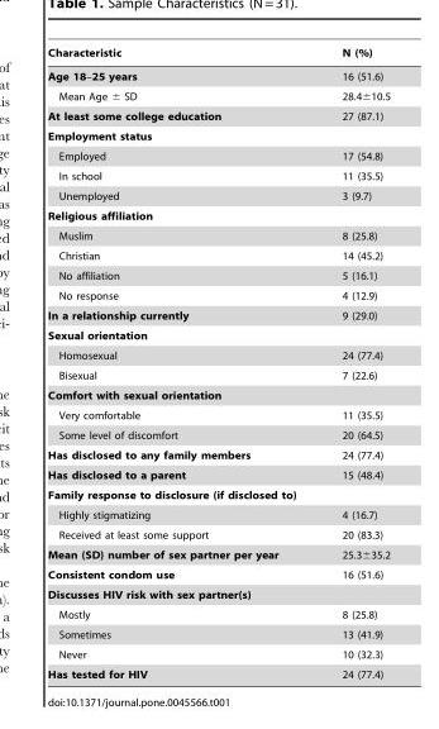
<table><thead><tr><td>Characteristic</td><td>N (%)</td></tr></thead><tbody><tr><td>Age 18–25 years</td><td>16 (51.6)</td></tr><tr><td>Mean Age ± SD</td><td>28.4±10.5</td></tr><tr><td>At least some college education</td><td>27 (87.1)</td></tr><tr><td colspan="2">Employment status</td></tr><tr><td>Employed</td><td>17 (54.8)</td></tr><tr><td>In school</td><td>11 (35.5)</td></tr><tr><td>Unemployed</td><td>3 (9.7)</td></tr><tr><td colspan="2">Religious affiliation</td></tr><tr><td>Muslim</td><td>8 (25.8)</td></tr><tr><td>Christian</td><td>14 (45.2)</td></tr><tr><td>No affiliation</td><td>5 (16.1)</td></tr><tr><td>No response</td><td>4 (12.9)</td></tr><tr><td>In a relationship currently</td><td>9 (29.0)</td></tr><tr><td colspan="2">Sexual orientation</td></tr><tr><td>Homosexual</td><td>24 (77.4)</td></tr><tr><td>Bisexual</td><td>7 (22.6)</td></tr><tr><td colspan="2">Comfort with sexual orientation</td></tr><tr><td>Very comfortable</td><td>11 (35.5)</td></tr><tr><td>Some level of discomfort</td><td>20 (64.5)</td></tr><tr><td>Has disclosed to any family members</td><td>24 (77.4)</td></tr><tr><td>Has disclosed to a parent</td><td>15 (48.4)</td></tr><tr><td colspan="2">Family response to disclosure (if disclosed to)</td></tr><tr><td>Highly stigmatizing</td><td>4 (16.7)</td></tr><tr><td>Received at least some support</td><td>20 (83.3)</td></tr><tr><td>Mean (SD) number of sex partner per year</td><td>25.3±35.2</td></tr><tr><td>Consistent condom use</td><td>16 (51.6)</td></tr><tr><td colspan="2">Discusses HIV risk with sex partner(s)</td></tr><tr><td>Mostly</td><td>8 (25.8)</td></tr><tr><td>Sometimes</td><td>13 (41.9)</td></tr><tr><td>Never</td><td>10 (32.3)</td></tr><tr><td>Has tested for HIV</td><td>24 (77.4)</td></tr></tbody></table>